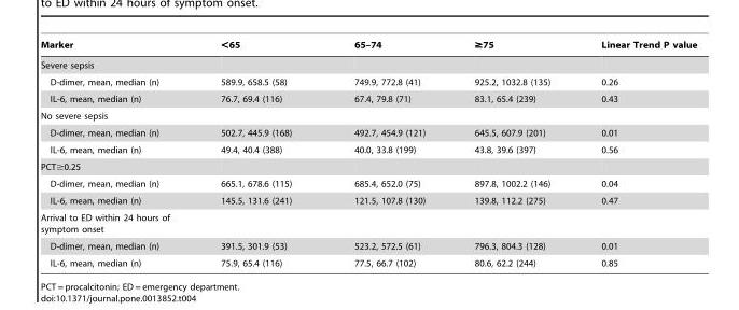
<table><thead><tr><td>Marker</td><td>&lt;65</td><td>65–74</td><td>≥75</td><td>Linear Trend P value</td></tr></thead><tbody><tr><td colspan="5">Severe sepsis</td></tr><tr><td>D-dimer, mean, median (n)</td><td>589.9, 658.5 (58)</td><td>749.9, 772.8 (41)</td><td>925.2, 1032.8 (135)</td><td>0.26</td></tr><tr><td>IL-6, mean, median (n)</td><td>76.7, 69.4 (116)</td><td>67.4, 79.8 (71)</td><td>83.1, 65.4 (239)</td><td>0.43</td></tr><tr><td colspan="5">No severe sepsis</td></tr><tr><td>D-dimer, mean, median (n)</td><td>502.7, 445.9 (168)</td><td>492.7, 454.9 (121)</td><td>645.5, 607.9 (201)</td><td>0.01</td></tr><tr><td>IL-6, mean, median (n)</td><td>49.4, 40.4 (388)</td><td>40.0, 33.8 (199)</td><td>43.8, 39.6 (397)</td><td>0.56</td></tr><tr><td colspan="5">PCT≥0.25</td></tr><tr><td>D-dimer, mean, median (n)</td><td>665.1, 678.6 (115)</td><td>685.4, 652.0 (75)</td><td>897.8, 1002.2 (146)</td><td>0.04</td></tr><tr><td>IL-6, mean, median (n)</td><td>145.5, 131.6 (241)</td><td>121.5, 107.8 (130)</td><td>139.8, 112.2 (275)</td><td>0.47</td></tr><tr><td colspan="5">Arrival to ED within 24 hours of symptom onset</td></tr><tr><td>D-dimer, mean, median (n)</td><td>391.5, 301.9 (53)</td><td>523.2, 572.5 (61)</td><td>796.3, 804.3 (128)</td><td>0.01</td></tr><tr><td>IL-6, mean, median (n)</td><td>75.9, 65.4 (116)</td><td>77.5, 66.7 (102)</td><td>80.6, 62.2 (244)</td><td>0.85</td></tr></tbody></table>